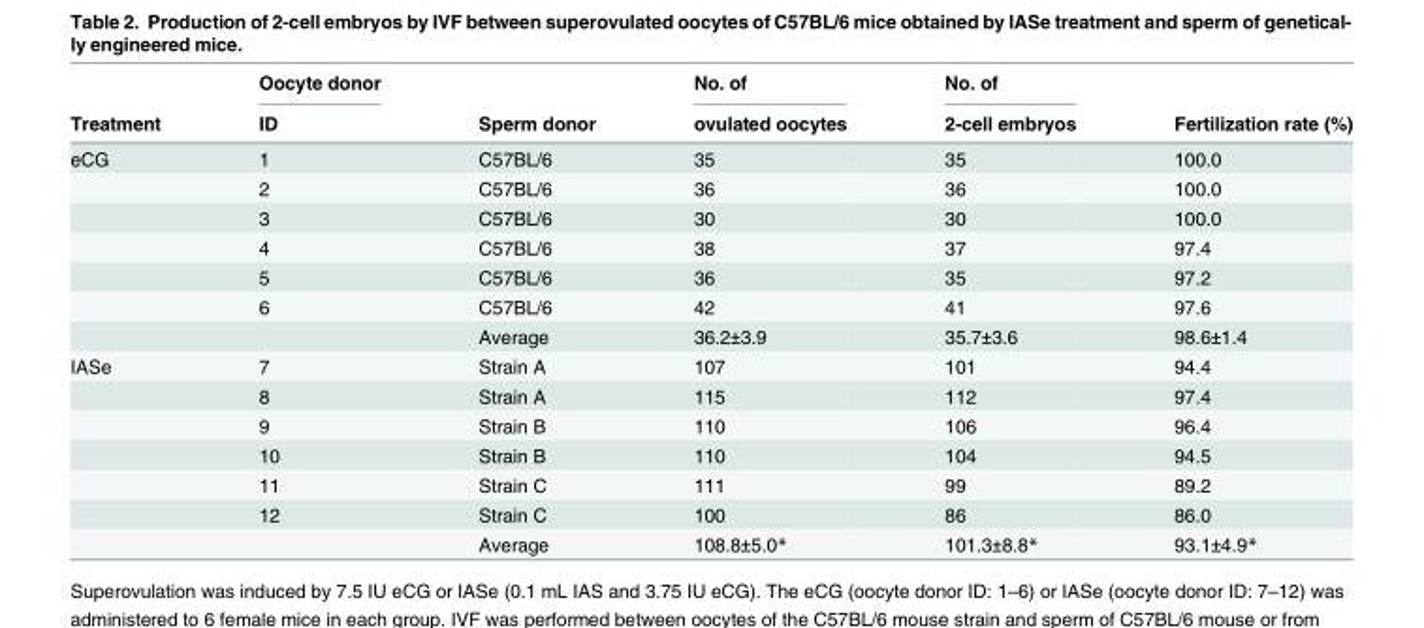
<table><thead><tr><td rowspan="2">Treatment</td><td rowspan="2">Oocyte donor ID</td><td rowspan="2">Sperm donor</td><td rowspan="2">No. of ovulated oocytes</td><td rowspan="2">No. of 2-cell embryos</td><td rowspan="2">Fertilization rate (%)</td></tr><tr></tr></thead><tbody><tr><td rowspan="7">eCG</td><td>1</td><td>C57BL/6</td><td>35</td><td>35</td><td>100.0</td></tr><tr><td>2</td><td>C57BL/6</td><td>36</td><td>36</td><td>100.0</td></tr><tr><td>3</td><td>C57BL/6</td><td>30</td><td>30</td><td>100.0</td></tr><tr><td>4</td><td>C57BL/6</td><td>38</td><td>37</td><td>97.4</td></tr><tr><td>5</td><td>C57BL/6</td><td>36</td><td>35</td><td>97.2</td></tr><tr><td>6</td><td>C57BL/6</td><td>42</td><td>41</td><td>97.6</td></tr><tr><td></td><td>Average</td><td>36.2±3.9</td><td>35.7±3.6</td><td>98.6±1.4</td></tr><tr><td rowspan="7">IASe</td><td>7</td><td>Strain A</td><td>107</td><td>101</td><td>94.4</td></tr><tr><td>8</td><td>Strain A</td><td>115</td><td>112</td><td>97.4</td></tr><tr><td>9</td><td>Strain B</td><td>110</td><td>106</td><td>96.4</td></tr><tr><td>10</td><td>Strain B</td><td>110</td><td>104</td><td>94.5</td></tr><tr><td>11</td><td>Strain C</td><td>111</td><td>99</td><td>89.2</td></tr><tr><td>12</td><td>Strain C</td><td>100</td><td>86</td><td>86.0</td></tr><tr><td></td><td>Average</td><td>108.8±5.0*</td><td>101.3±8.8*</td><td>93.1±4.9*</td></tr></tbody></table>